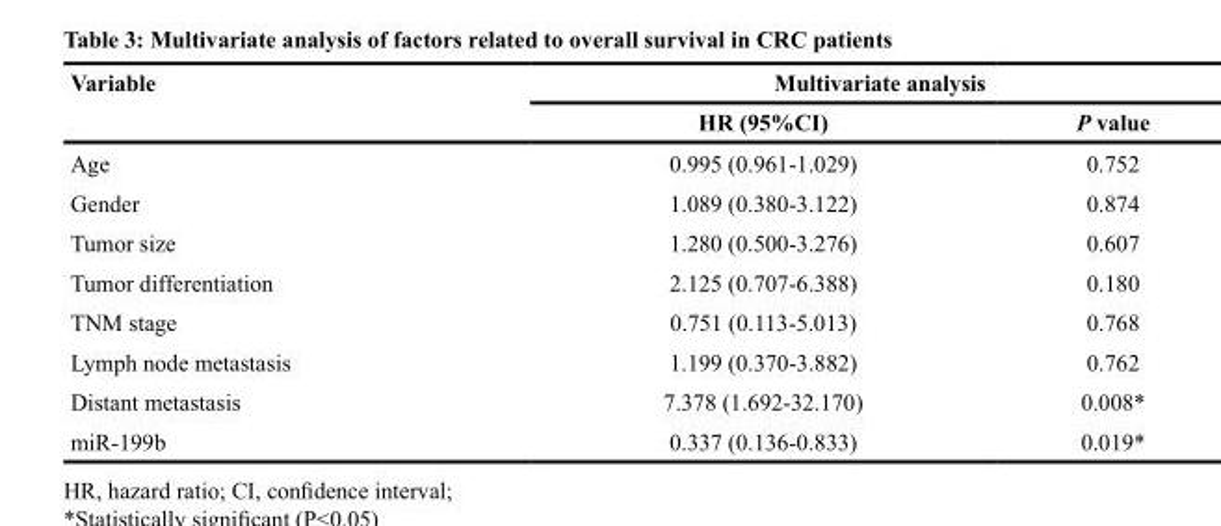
<table><thead><tr><td rowspan="2">Variable</td><td colspan="2">Multivariate analysis</td></tr><tr><td>HR (95%CI)</td><td>P value</td></tr></thead><tbody><tr><td>Age</td><td>0.995 (0.961-1.029)</td><td>0.752</td></tr><tr><td>Gender</td><td>1.089 (0.380-3.122)</td><td>0.874</td></tr><tr><td>Tumor size</td><td>1.280 (0.500-3.276)</td><td>0.607</td></tr><tr><td>Tumor differentiation</td><td>2.125 (0.707-6.388)</td><td>0.180</td></tr><tr><td>TNM stage</td><td>0.751 (0.113-5.013)</td><td>0.768</td></tr><tr><td>Lymph node metastasis</td><td>1.199 (0.370-3.882)</td><td>0.762</td></tr><tr><td>Distant metastasis</td><td>7.378 (1.692-32.170)</td><td>0.008*</td></tr><tr><td>miR-199b</td><td>0.337 (0.136-0.833)</td><td>0.019*</td></tr></tbody></table>